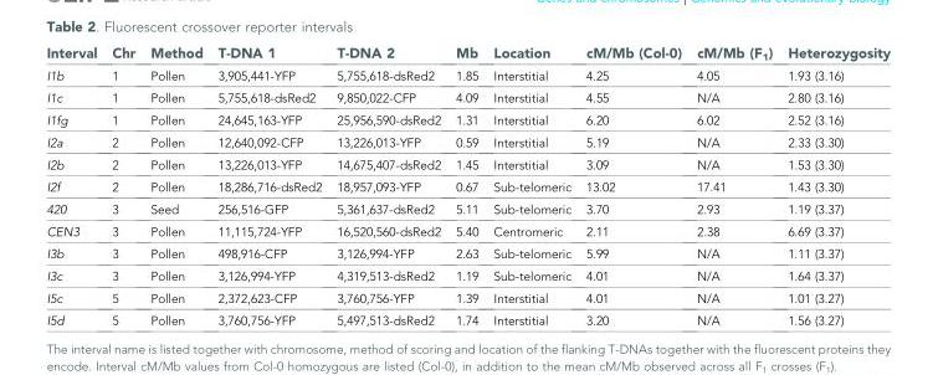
<table><thead><tr><td>Interval</td><td>Chr</td><td>Method</td><td>T-DNA 1</td><td>T-DNA 2</td><td>Mb</td><td>Location</td><td>cM/Mb (Col-0)</td><td>cM/Mb (F<sub>1</sub>)</td><td>Heterozygosity</td></tr></thead><tbody><tr><td>I1b</td><td>1</td><td>Pollen</td><td>3,905,441-YFP</td><td>5,755,618-dsRed2</td><td>1.85</td><td>Interstitial</td><td>4.25</td><td>4.05</td><td>1.93 (3.16)</td></tr><tr><td>I1c</td><td>1</td><td>Pollen</td><td>5,755,618-dsRed2</td><td>9,850,022-CFP</td><td>4.09</td><td>Interstitial</td><td>4.55</td><td>N/A</td><td>2.80 (3.16)</td></tr><tr><td>I1fg</td><td>1</td><td>Pollen</td><td>24,645,163-YFP</td><td>25,956,590-dsRed2</td><td>1.31</td><td>Interstitial</td><td>6.20</td><td>6.02</td><td>2.52 (3.16)</td></tr><tr><td>I2a</td><td>2</td><td>Pollen</td><td>12,640,092-CFP</td><td>13,226,013-YFP</td><td>0.59</td><td>Interstitial</td><td>5.19</td><td>N/A</td><td>2.33 (3.30)</td></tr><tr><td>I2b</td><td>2</td><td>Pollen</td><td>13,226,013-YFP</td><td>14,675,407-dsRed2</td><td>1.45</td><td>Interstitial</td><td>3.09</td><td>N/A</td><td>1.53 (3.30)</td></tr><tr><td>I2f</td><td>2</td><td>Pollen</td><td>18,286,716-dsRed2</td><td>18,957,093-YFP</td><td>0.67</td><td>Sub-telomeric</td><td>13.02</td><td>17.41</td><td>1.43 (3.30)</td></tr><tr><td>420</td><td>3</td><td>Seed</td><td>256,516-GFP</td><td>5,361,637-dsRed2</td><td>5.11</td><td>Sub-telomeric</td><td>3.70</td><td>2.93</td><td>1.19 (3.37)</td></tr><tr><td>CEN3</td><td>3</td><td>Pollen</td><td>11,115,724-YFP</td><td>16,520,560-dsRed2</td><td>5.40</td><td>Centromeric</td><td>2.11</td><td>2.38</td><td>6.69 (3.37)</td></tr><tr><td>I3b</td><td>3</td><td>Pollen</td><td>498,916-CFP</td><td>3,126,994-YFP</td><td>2.63</td><td>Sub-telomeric</td><td>5.99</td><td>N/A</td><td>1.11 (3.37)</td></tr><tr><td>I3c</td><td>3</td><td>Pollen</td><td>3,126,994-YFP</td><td>4,319,513-dsRed2</td><td>1.19</td><td>Sub-telomeric</td><td>4.01</td><td>N/A</td><td>1.64 (3.37)</td></tr><tr><td>I5c</td><td>5</td><td>Pollen</td><td>2,372,623-CFP</td><td>3,760,756-YFP</td><td>1.39</td><td>Interstitial</td><td>4.01</td><td>N/A</td><td>1.01 (3.27)</td></tr><tr><td>I5d</td><td>5</td><td>Pollen</td><td>3,760,756-YFP</td><td>5,497,513-dsRed2</td><td>1.74</td><td>Interstitial</td><td>3.20</td><td>N/A</td><td>1.56 (3.27)</td></tr></tbody></table>